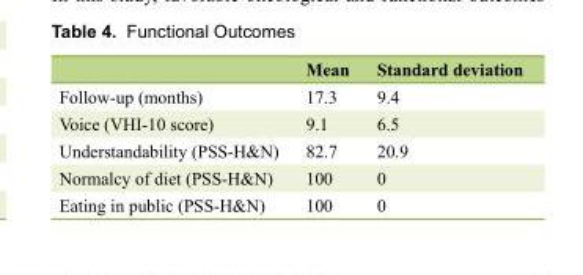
<table><thead><tr><td></td><td>Mean</td><td>Standard deviation</td></tr></thead><tbody><tr><td>Follow-up (months)</td><td>17.3</td><td>9.4</td></tr><tr><td>Voice (VHI-10 score)</td><td>9.1</td><td>6.5</td></tr><tr><td>Understandability (PSS-H&amp;N)</td><td>82.7</td><td>20.9</td></tr><tr><td>Normalcy of diet (PSS-H&amp;N)</td><td>100</td><td>0</td></tr><tr><td>Eating in public (PSS-H&amp;N)</td><td>100</td><td>0</td></tr></tbody></table>